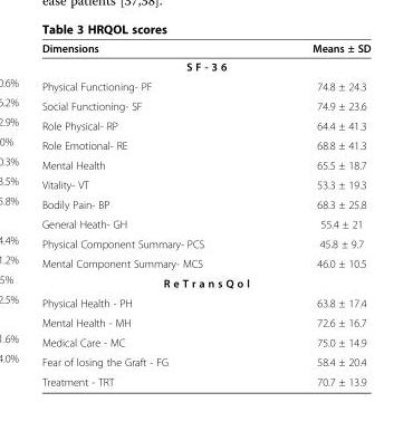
<table><thead><tr><td>Dimensions</td><td>Means ± SD</td></tr></thead><tbody><tr><td colspan="2">S F - 3 6</td></tr><tr><td>Physical Functioning- PF</td><td>74.8 ± 24.3</td></tr><tr><td>Social Functioning- SF</td><td>74.9 ± 23.6</td></tr><tr><td>Role Physical- RP</td><td>64.4 ± 41.3</td></tr><tr><td>Role Emotional- RE</td><td>68.8 ± 41.3</td></tr><tr><td>Mental Health</td><td>65.5 ± 18.7</td></tr><tr><td>Vitality- VT</td><td>53.3 ± 19.3</td></tr><tr><td>Bodily Pain- BP</td><td>68.3 ± 25.8</td></tr><tr><td>General Heath- GH</td><td>55.4 ± 21</td></tr><tr><td>Physical Component Summary- PCS</td><td>45.8 ± 9.7</td></tr><tr><td>Mental Component Summary- MCS</td><td>46.0 ± 10.5</td></tr><tr><td colspan="2">R e T r a n s Q o l</td></tr><tr><td>Physical Health - PH</td><td>63.8 ± 17.4</td></tr><tr><td>Mental Health - MH</td><td>72.6 ± 16.7</td></tr><tr><td>Medical Care - MC</td><td>75.0 ± 14.9</td></tr><tr><td>Fear of losing the Graft - FG</td><td>58.4 ± 20.4</td></tr><tr><td>Treatment - TRT</td><td>70.7 ± 13.9</td></tr></tbody></table>